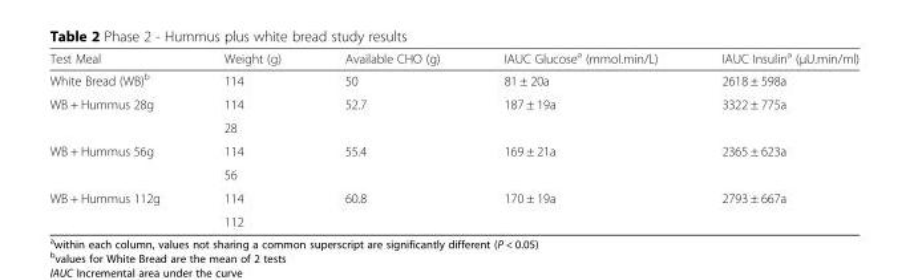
<table><thead><tr><td>Test Meal</td><td>Weight (g)</td><td>Available CHO (g)</td><td>IAUC Glucose<sup>a</sup> (mmol.min/L)</td><td>IAUC Insulin<sup>a</sup> (μU.min/ml)</td></tr></thead><tbody><tr><td>White Bread (WB)<sup>b</sup></td><td>114</td><td>50</td><td>81 ± 20a</td><td>2618 ± 598a</td></tr><tr><td rowspan="2">WB + Hummus 28g</td><td>114</td><td>52.7</td><td>187 ± 19a</td><td>3322 ± 775a</td></tr><tr><td>28</td><td></td><td></td><td></td></tr><tr><td rowspan="2">WB + Hummus 56g</td><td>114</td><td>55.4</td><td>169 ± 21a</td><td>2365 ± 623a</td></tr><tr><td>56</td><td></td><td></td><td></td></tr><tr><td rowspan="2">WB + Hummus 112g</td><td>114</td><td>60.8</td><td>170 ± 19a</td><td>2793 ± 667a</td></tr><tr><td>112</td><td></td><td></td><td></td></tr></tbody></table>